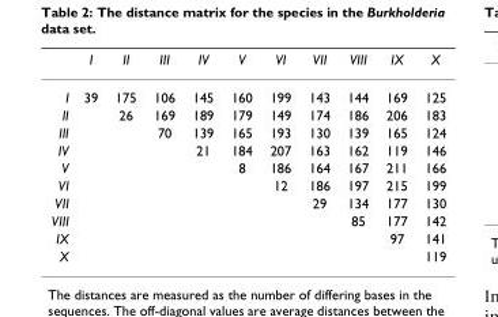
<table><thead><tr><td></td><td>I</td><td>II</td><td>III</td><td>IV</td><td>V</td><td>VI</td><td>VII</td><td>VIII</td><td>IX</td><td>X</td></tr></thead><tbody><tr><td>I</td><td>39</td><td>175</td><td>106</td><td>145</td><td>160</td><td>199</td><td>143</td><td>144</td><td>169</td><td>125</td></tr><tr><td>II</td><td></td><td>26</td><td>169</td><td>189</td><td>179</td><td>149</td><td>174</td><td>186</td><td>206</td><td>183</td></tr><tr><td>III</td><td></td><td></td><td>70</td><td>139</td><td>165</td><td>193</td><td>130</td><td>139</td><td>165</td><td>124</td></tr><tr><td>IV</td><td></td><td></td><td></td><td>21</td><td>184</td><td>207</td><td>163</td><td>162</td><td>119</td><td>146</td></tr><tr><td>V</td><td></td><td></td><td></td><td></td><td>8</td><td>186</td><td>164</td><td>167</td><td>211</td><td>166</td></tr><tr><td>VI</td><td></td><td></td><td></td><td></td><td></td><td>12</td><td>186</td><td>197</td><td>215</td><td>199</td></tr><tr><td>VII</td><td></td><td></td><td></td><td></td><td></td><td></td><td>29</td><td>134</td><td>177</td><td>130</td></tr><tr><td>VIII</td><td></td><td></td><td></td><td></td><td></td><td></td><td></td><td>85</td><td>177</td><td>142</td></tr><tr><td>IX</td><td></td><td></td><td></td><td></td><td></td><td></td><td></td><td></td><td>97</td><td>141</td></tr><tr><td>X</td><td></td><td></td><td></td><td></td><td></td><td></td><td></td><td></td><td></td><td>119</td></tr></tbody></table>